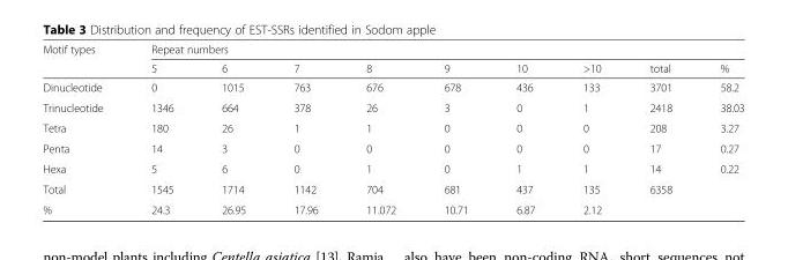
<table><thead><tr><td rowspan="2">Motif types</td><td colspan="9">Repeat numbers</td></tr><tr><td>5</td><td>6</td><td>7</td><td>8</td><td>9</td><td>10</td><td>&gt;10</td><td>total</td><td>%</td></tr></thead><tbody><tr><td>Dinucleotide</td><td>0</td><td>1015</td><td>763</td><td>676</td><td>678</td><td>436</td><td>133</td><td>3701</td><td>58.2</td></tr><tr><td>Trinucleotide</td><td>1346</td><td>664</td><td>378</td><td>26</td><td>3</td><td>0</td><td>1</td><td>2418</td><td>38.03</td></tr><tr><td>Tetra</td><td>180</td><td>26</td><td>1</td><td>1</td><td>0</td><td>0</td><td>0</td><td>208</td><td>3.27</td></tr><tr><td>Penta</td><td>14</td><td>3</td><td>0</td><td>0</td><td>0</td><td>0</td><td>0</td><td>17</td><td>0.27</td></tr><tr><td>Hexa</td><td>5</td><td>6</td><td>0</td><td>1</td><td>0</td><td>1</td><td>1</td><td>14</td><td>0.22</td></tr><tr><td>Total</td><td>1545</td><td>1714</td><td>1142</td><td>704</td><td>681</td><td>437</td><td>135</td><td>6358</td><td></td></tr><tr><td>%</td><td>24.3</td><td>26.95</td><td>17.96</td><td>11.072</td><td>10.71</td><td>6.87</td><td>2.12</td><td></td><td></td></tr></tbody></table>